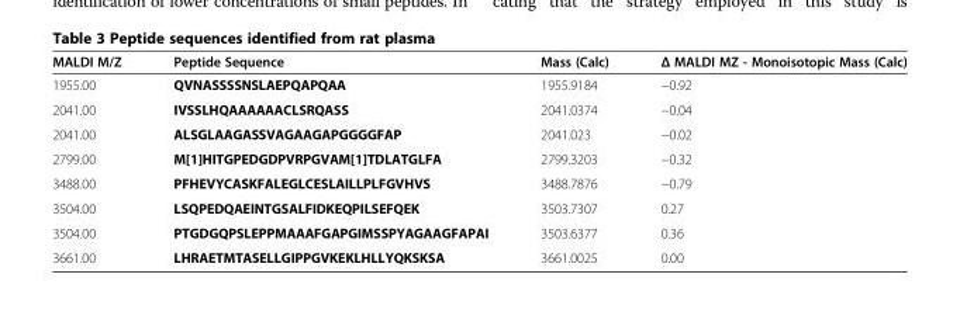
<table><thead><tr><td>MALDI M/Z</td><td>Peptide Sequence</td><td>Mass (Calc)</td><td>Δ MALDI MZ - Monoisotopic Mass (Calc)</td></tr></thead><tbody><tr><td>1955.00</td><td>QVNASSSSNSLAEPQAPQAA</td><td>1955.9184</td><td>−0.92</td></tr><tr><td>2041.00</td><td>IVSSLHQAAAAAACLSRQASS</td><td>2041.0374</td><td>−0.04</td></tr><tr><td>2041.00</td><td>ALSGLAAGASSVAGAAGAPGGGGFAP</td><td>2041.023</td><td>−0.02</td></tr><tr><td>2799.00</td><td>M[1]HITGPEDGDPVRPGVAM[1]TDLATGLFA</td><td>2799.3203</td><td>−0.32</td></tr><tr><td>3488.00</td><td>PFHEVYCASKFALEGLCESLAILLPLFGVHVS</td><td>3488.7876</td><td>−0.79</td></tr><tr><td>3504.00</td><td>LSQPEDQAEINTGSALFIDKEQPILSEFQEK</td><td>3503.7307</td><td>0.27</td></tr><tr><td>3504.00</td><td>PTGDGQPSLEPPMAAAFGAPGIMSSPYAGAAGFAPAI</td><td>3503.6377</td><td>0.36</td></tr><tr><td>3661.00</td><td>LHRAETMTASELLGIPPGVKEKLHLLYQKSKSA</td><td>3661.0025</td><td>0.00</td></tr></tbody></table>